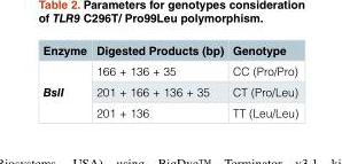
<table><thead><tr><td>Enzyme</td><td>Digested Products (bp)</td><td>Genotype</td></tr></thead><tbody><tr><td rowspan="3">BslI</td><td>166 + 136 + 35</td><td>CC (Pro/Pro)</td></tr><tr><td>201 + 166 + 136 + 35</td><td>CT (Pro/Leu)</td></tr><tr><td>201 + 136</td><td>TT (Leu/Leu)</td></tr></tbody></table>